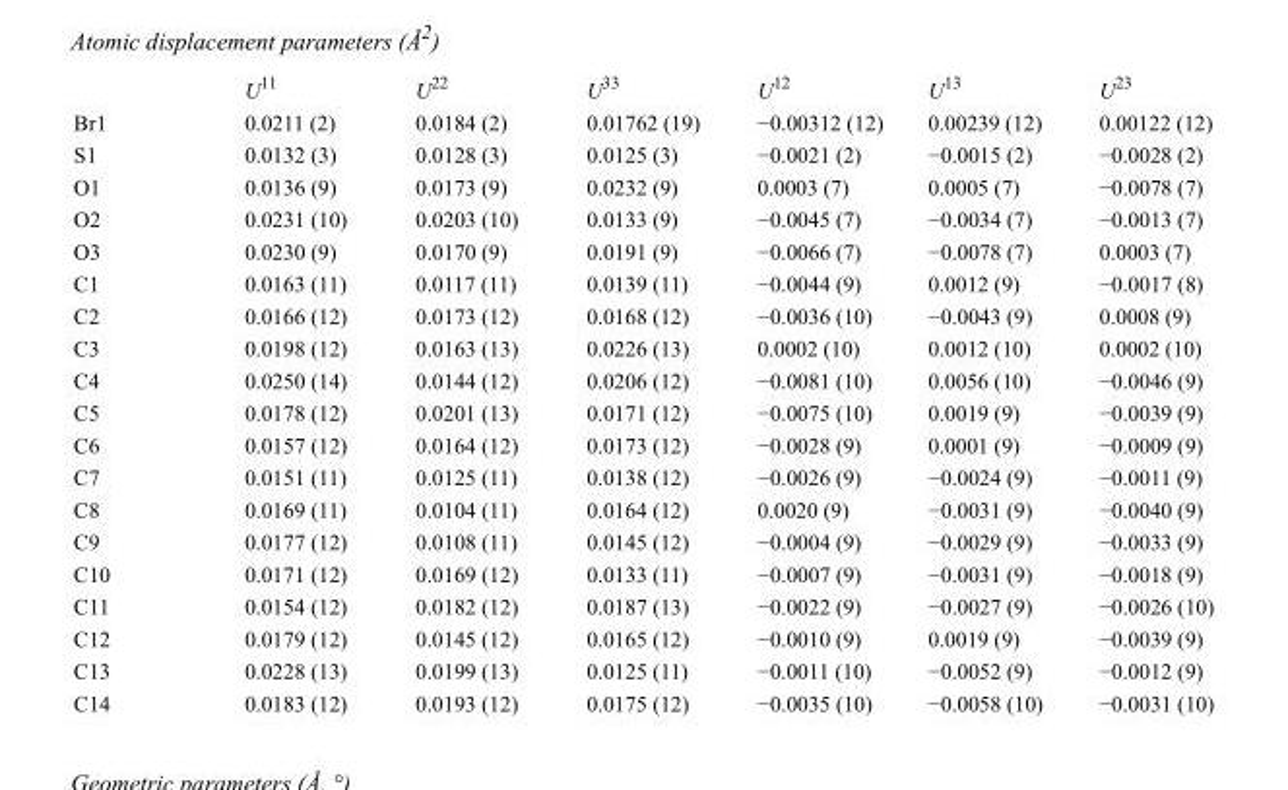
<table><thead><tr><td></td><td>U<sup>11</sup></td><td>U<sup>22</sup></td><td>U<sup>33</sup></td><td>U<sup>12</sup></td><td>U<sup>13</sup></td><td>U<sup>23</sup></td></tr></thead><tbody><tr><td>Br1</td><td>0.0211 (2)</td><td>0.0184 (2)</td><td>0.01762 (19)</td><td>−0.00312 (12)</td><td>0.00239 (12)</td><td>0.00122 (12)</td></tr><tr><td>S1</td><td>0.0132 (3)</td><td>0.0128 (3)</td><td>0.0125 (3)</td><td>−0.0021 (2)</td><td>−0.0015 (2)</td><td>−0.0028 (2)</td></tr><tr><td>O1</td><td>0.0136 (9)</td><td>0.0173 (9)</td><td>0.0232 (9)</td><td>0.0003 (7)</td><td>0.0005 (7)</td><td>−0.0078 (7)</td></tr><tr><td>O2</td><td>0.0231 (10)</td><td>0.0203 (10)</td><td>0.0133 (9)</td><td>−0.0045 (7)</td><td>−0.0034 (7)</td><td>−0.0013 (7)</td></tr><tr><td>O3</td><td>0.0230 (9)</td><td>0.0170 (9)</td><td>0.0191 (9)</td><td>−0.0066 (7)</td><td>−0.0078 (7)</td><td>0.0003 (7)</td></tr><tr><td>C1</td><td>0.0163 (11)</td><td>0.0117 (11)</td><td>0.0139 (11)</td><td>−0.0044 (9)</td><td>0.0012 (9)</td><td>−0.0017 (8)</td></tr><tr><td>C2</td><td>0.0166 (12)</td><td>0.0173 (12)</td><td>0.0168 (12)</td><td>−0.0036 (10)</td><td>−0.0043 (9)</td><td>0.0008 (9)</td></tr><tr><td>C3</td><td>0.0198 (12)</td><td>0.0163 (13)</td><td>0.0226 (13)</td><td>0.0002 (10)</td><td>0.0012 (10)</td><td>0.0002 (10)</td></tr><tr><td>C4</td><td>0.0250 (14)</td><td>0.0144 (12)</td><td>0.0206 (12)</td><td>−0.0081 (10)</td><td>0.0056 (10)</td><td>−0.0046 (9)</td></tr><tr><td>C5</td><td>0.0178 (12)</td><td>0.0201 (13)</td><td>0.0171 (12)</td><td>−0.0075 (10)</td><td>0.0019 (9)</td><td>−0.0039 (9)</td></tr><tr><td>C6</td><td>0.0157 (12)</td><td>0.0164 (12)</td><td>0.0173 (12)</td><td>−0.0028 (9)</td><td>0.0001 (9)</td><td>−0.0009 (9)</td></tr><tr><td>C7</td><td>0.0151 (11)</td><td>0.0125 (11)</td><td>0.0138 (12)</td><td>−0.0026 (9)</td><td>−0.0024 (9)</td><td>−0.0011 (9)</td></tr><tr><td>C8</td><td>0.0169 (11)</td><td>0.0104 (11)</td><td>0.0164 (12)</td><td>0.0020 (9)</td><td>−0.0031 (9)</td><td>−0.0040 (9)</td></tr><tr><td>C9</td><td>0.0177 (12)</td><td>0.0108 (11)</td><td>0.0145 (12)</td><td>−0.0004 (9)</td><td>−0.0029 (9)</td><td>−0.0033 (9)</td></tr><tr><td>C10</td><td>0.0171 (12)</td><td>0.0169 (12)</td><td>0.0133 (11)</td><td>−0.0007 (9)</td><td>−0.0031 (9)</td><td>−0.0018 (9)</td></tr><tr><td>C11</td><td>0.0154 (12)</td><td>0.0182 (12)</td><td>0.0187 (13)</td><td>−0.0022 (9)</td><td>−0.0027 (9)</td><td>−0.0026 (10)</td></tr><tr><td>C12</td><td>0.0179 (12)</td><td>0.0145 (12)</td><td>0.0165 (12)</td><td>−0.0010 (9)</td><td>0.0019 (9)</td><td>−0.0039 (9)</td></tr><tr><td>C13</td><td>0.0228 (13)</td><td>0.0199 (13)</td><td>0.0125 (11)</td><td>−0.0011 (10)</td><td>−0.0052 (9)</td><td>−0.0012 (9)</td></tr><tr><td>C14</td><td>0.0183 (12)</td><td>0.0193 (12)</td><td>0.0175 (12)</td><td>−0.0035 (10)</td><td>−0.0058 (10)</td><td>−0.0031 (10)</td></tr></tbody></table>